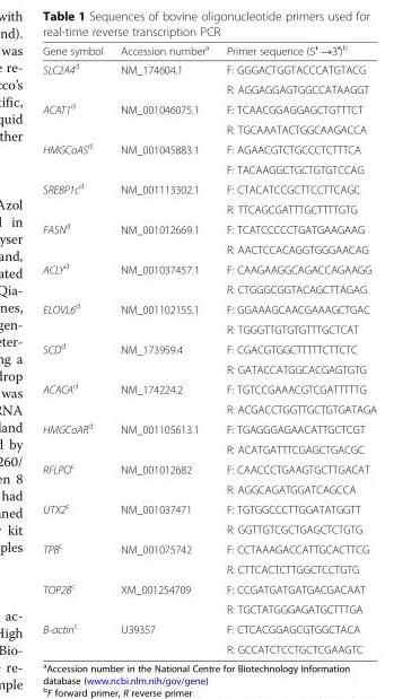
<table><thead><tr><td>Gene symbol</td><td>Accession number<sup>a</sup></td><td>Primer sequence (5′ →3′)<sup>b</sup></td></tr></thead><tbody><tr><td rowspan="2">SLC2A4<sup>d</sup></td><td rowspan="2">NM_174604.1</td><td>F: GGGACTGGTACCCATGTACG</td></tr><tr><td>R: AGGAGGAGTGGCCATAAGGT</td></tr><tr><td rowspan="2">ACAT1<sup>d</sup></td><td rowspan="2">NM_001046075.1</td><td>F: TCAACGGAGGAGCTGTTTCT</td></tr><tr><td>R: TGCAAATACTGGCAAGACCA</td></tr><tr><td rowspan="2">HMGCoAS<sup>d</sup></td><td rowspan="2">NM_001045883.1</td><td>F: AGAACGTCTGCCCTCTTTCA</td></tr><tr><td>F: TACAAGGCTGCTGTGTCCAG</td></tr><tr><td rowspan="2">SREBP1c<sup>d</sup></td><td rowspan="2">NM_001113302.1</td><td>F: CTACATCCGCTTCCTTCAGC</td></tr><tr><td>R: TTCAGCGATTTGCTTTTGTG</td></tr><tr><td rowspan="2">FASN<sup>d</sup></td><td rowspan="2">NM_001012669.1</td><td>F: TCATCCCCCTGATGAAGAAG</td></tr><tr><td>R: AACTCCACAGGTGGGAACAG</td></tr><tr><td rowspan="2">ACLY<sup>d</sup></td><td rowspan="2">NM_001037457.1</td><td>F: CAAGAAGGCAGACCAGAAGG</td></tr><tr><td>R: CTGGGCGGTACAGCTTAGAG</td></tr><tr><td rowspan="2">ELOVL6<sup>d</sup></td><td rowspan="2">NM_001102155.1</td><td>F: GGAAAGCAACGAAAGCTGAC</td></tr><tr><td>R: TGGGTTGTGTGTTTGCTCAT</td></tr><tr><td rowspan="2">SCD<sup>d</sup></td><td rowspan="2">NM_173959.4</td><td>F: CGACGTGGCTTTTTCTTCTC</td></tr><tr><td>R: GATACCATGGCACGAGTGTG</td></tr><tr><td rowspan="2">ACACA<sup>d</sup></td><td rowspan="2">NM_174224.2</td><td>F: TGTCCGAAACGTCGATTTTTG</td></tr><tr><td>R: ACGACCTGGTTGCTGTGATAGA</td></tr><tr><td rowspan="2">HMGCoAR<sup>d</sup></td><td rowspan="2">NM_001105613.1</td><td>F: TGAGGGAGAACATTGCTCGT</td></tr><tr><td>R: ACATGATTTCGAGCTGACGC</td></tr><tr><td rowspan="2">RFLPO<sup>c</sup></td><td rowspan="2">NM_001012682</td><td>F: CAACCCTGAAGTGCTTGACAT</td></tr><tr><td>R: AGGCAGATGGATCAGCCA</td></tr><tr><td rowspan="2">UTX2<sup>c</sup></td><td rowspan="2">NM_001037471</td><td>F: TGTGGCCCTTGGATATGGTT</td></tr><tr><td>R: GGTTGTCGCTGAGCTCTGTG</td></tr><tr><td rowspan="2">TPB<sup>c</sup></td><td rowspan="2">NM_001075742</td><td>F: CCTAAAGACCATTGCACTTCG</td></tr><tr><td>R: CTTCACTCTTGGCTCCTGTG</td></tr><tr><td rowspan="2">TOP2B<sup>c</sup></td><td rowspan="2">XM_001254709</td><td>F: CCGATGATGATGACGACAAT</td></tr><tr><td>R: TGCTATGGGAGATGCTTTGA</td></tr><tr><td rowspan="2">B-actin<sup>c</sup></td><td rowspan="2">U39357</td><td>F: CTCACGGAGCGTGGCTACA</td></tr><tr><td>R: GCCATCTCCTGCTCGAAGTC</td></tr></tbody></table>